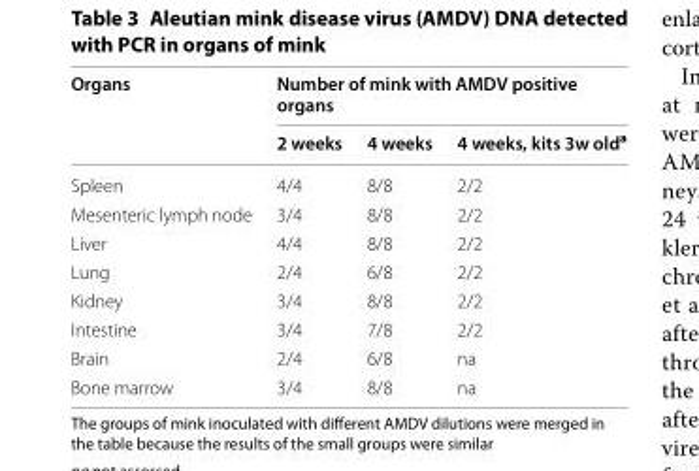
<table><thead><tr><td rowspan="2">Organs</td><td colspan="3">Number of mink with AMDV positive organs</td></tr><tr><td>2 weeks</td><td>4 weeks</td><td>4 weeks, kits 3w old<sup>a</sup></td></tr></thead><tbody><tr><td>Spleen</td><td>4/4</td><td>8/8</td><td>2/2</td></tr><tr><td>Mesenteric lymph node</td><td>3/4</td><td>8/8</td><td>2/2</td></tr><tr><td>Liver</td><td>4/4</td><td>8/8</td><td>2/2</td></tr><tr><td>Lung</td><td>2/4</td><td>6/8</td><td>2/2</td></tr><tr><td>Kidney</td><td>3/4</td><td>8/8</td><td>2/2</td></tr><tr><td>Intestine</td><td>3/4</td><td>7/8</td><td>2/2</td></tr><tr><td>Brain</td><td>2/4</td><td>6/8</td><td>na</td></tr><tr><td>Bone marrow</td><td>3/4</td><td>8/8</td><td>na</td></tr></tbody></table>